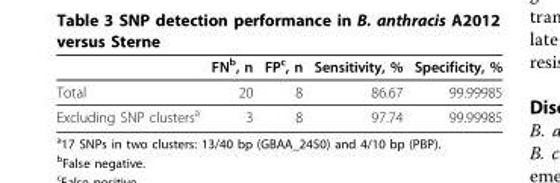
<table><thead><tr><td></td><td>FN<sup>b</sup>, n</td><td>FP<sup>c</sup>, n</td><td>Sensitivity, %</td><td>Specificity, %</td></tr></thead><tbody><tr><td>Total</td><td>20</td><td>8</td><td>86.67</td><td>99.99985</td></tr><tr><td>Excluding SNP clusters<sup>a</sup></td><td>3</td><td>8</td><td>97.74</td><td>99.99985</td></tr></tbody></table>